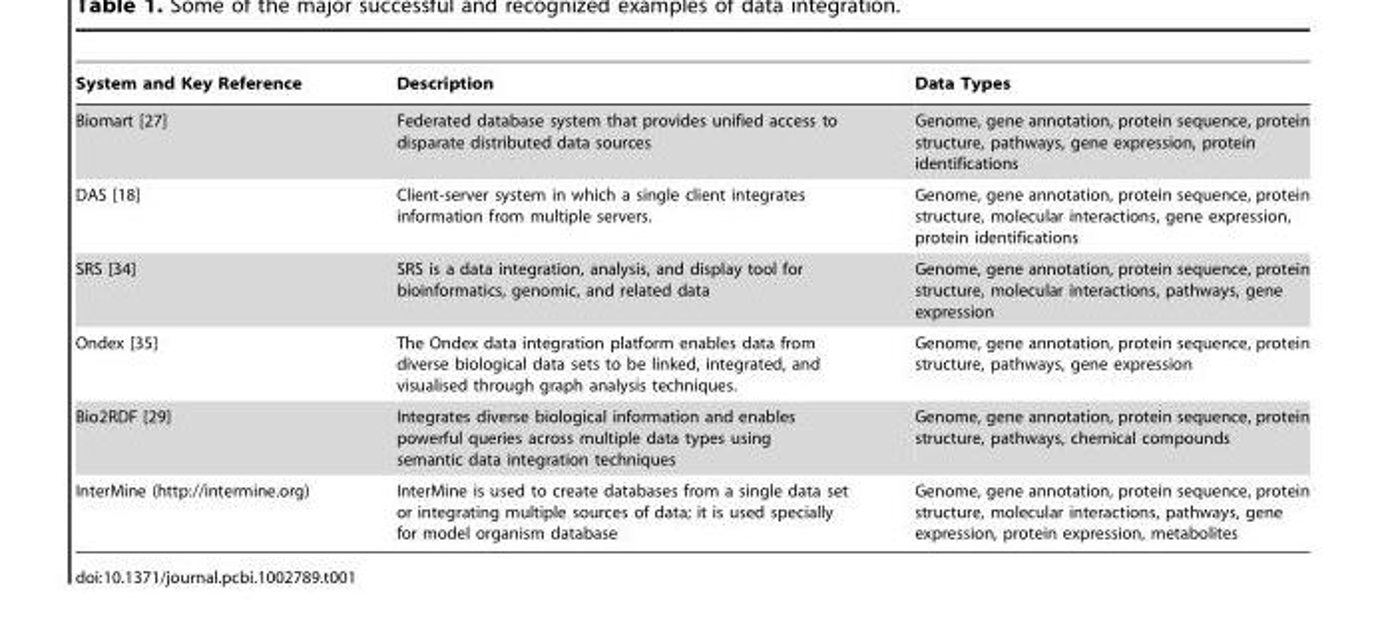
<table><thead><tr><td>System and Key Reference</td><td>Description</td><td>Data Types</td></tr></thead><tbody><tr><td>Biomart [27]</td><td>Federated database system that provides unified access to disparate distributed data sources</td><td>Genome, gene annotation, protein sequence, protein structure, pathways, gene expression, protein identifications</td></tr><tr><td>DAS [18]</td><td>Client-server system in which a single client integrates information from multiple servers.</td><td>Genome, gene annotation, protein sequence, protein structure, molecular interactions, gene expression, protein identifications</td></tr><tr><td>SRS [34]</td><td>SRS is a data integration, analysis, and display tool for bioinformatics, genomic, and related data</td><td>Genome, gene annotation, protein sequence, protein structure, molecular interactions, pathways, gene expression</td></tr><tr><td>Ondex [35]</td><td>The Ondex data integration platform enables data from diverse biological data sets to be linked, integrated, and visualised through graph analysis techniques.</td><td>Genome, gene annotation, protein sequence, protein structure, pathways, gene expression</td></tr><tr><td>Bio2RDF [29]</td><td>Integrates diverse biological information and enables powerful queries across multiple data types using semantic data integration techniques</td><td>Genome, gene annotation, protein sequence, protein structure, pathways, chemical compounds</td></tr><tr><td>InterMine (http://intermine.org)</td><td>InterMine is used to create databases from a single data set or integrating multiple sources of data; it is used specially for model organism database</td><td>Genome, gene annotation, protein sequence, protein structure, molecular interactions, pathways, gene expression, protein expression, metabolites</td></tr></tbody></table>